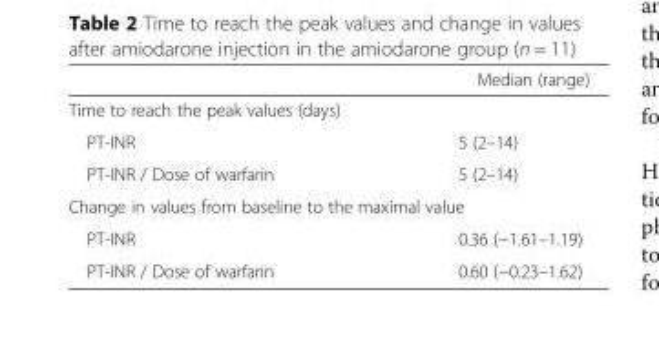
<table><thead><tr><td></td><td>Median (range)</td></tr></thead><tbody><tr><td colspan="2">Time to reach the peak values (days)</td></tr><tr><td>PT-INR</td><td>5 (2–14)</td></tr><tr><td>PT-INR / Dose of warfarin</td><td>5 (2–14)</td></tr><tr><td colspan="2">Change in values from baseline to the maximal value</td></tr><tr><td>PT-INR</td><td>0.36 (−1.61–1.19)</td></tr><tr><td>PT-INR / Dose of warfarin</td><td>0.60 (−0.23–1.62)</td></tr></tbody></table>